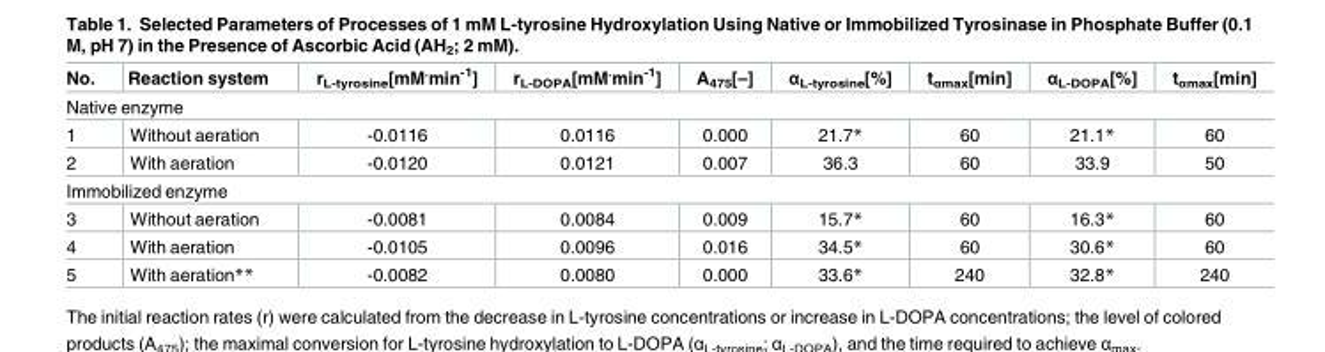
<table><thead><tr><td>No.</td><td>Reaction system</td><td>r<sub>L-tyrosine</sub>[mM<sup>.</sup>min<sup>-1</sup>]</td><td>r<sub>L-DOPA</sub>[mM<sup>.</sup>min<sup>-1</sup>]</td><td>A<sub>475</sub>[–]</td><td>α<sub>L-tyrosine</sub>[%]</td><td>t<sub>αmax</sub>[min]</td><td>α<sub>L-DOPA</sub>[%]</td><td>t<sub>αmax</sub>[min]</td></tr></thead><tbody><tr><td colspan="9">Native enzyme</td></tr><tr><td>1</td><td>Without aeration</td><td>-0.0116</td><td>0.0116</td><td>0.000</td><td>21.7*</td><td>60</td><td>21.1*</td><td>60</td></tr><tr><td>2</td><td>With aeration</td><td>-0.0120</td><td>0.0121</td><td>0.007</td><td>36.3</td><td>60</td><td>33.9</td><td>50</td></tr><tr><td colspan="9">Immobilized enzyme</td></tr><tr><td>3</td><td>Without aeration</td><td>-0.0081</td><td>0.0084</td><td>0.009</td><td>15.7*</td><td>60</td><td>16.3*</td><td>60</td></tr><tr><td>4</td><td>With aeration</td><td>-0.0105</td><td>0.0096</td><td>0.016</td><td>34.5*</td><td>60</td><td>30.6*</td><td>60</td></tr><tr><td>5</td><td>With aeration**</td><td>-0.0082</td><td>0.0080</td><td>0.000</td><td>33.6*</td><td>240</td><td>32.8*</td><td>240</td></tr></tbody></table>